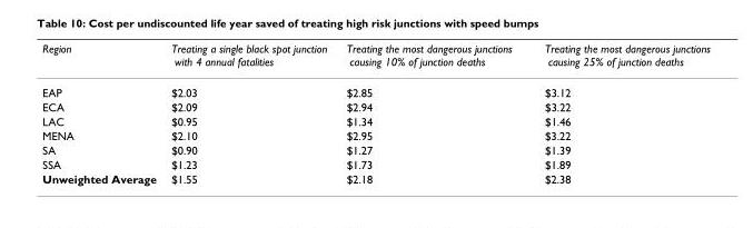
<table><thead><tr><td>Region</td><td>Treating a single black spot junction with 4 annual fatalities</td><td>Treating the most dangerous junctions causing 10% of junction deaths</td><td>Treating the most dangerous junctions causing 25% of junction deaths</td></tr></thead><tbody><tr><td>EAP</td><td>$2.03</td><td>$2.85</td><td>$3.12</td></tr><tr><td>ECA</td><td>$2.09</td><td>$2.94</td><td>$3.22</td></tr><tr><td>LAC</td><td>$0.95</td><td>$1.34</td><td>$1.46</td></tr><tr><td>MENA</td><td>$2.10</td><td>$2.95</td><td>$3.22</td></tr><tr><td>SA</td><td>$0.90</td><td>$1.27</td><td>$1.39</td></tr><tr><td>SSA</td><td>$1.23</td><td>$1.73</td><td>$1.89</td></tr><tr><td>Unweighted Average</td><td>$1.55</td><td>$2.18</td><td>$2.38</td></tr></tbody></table>